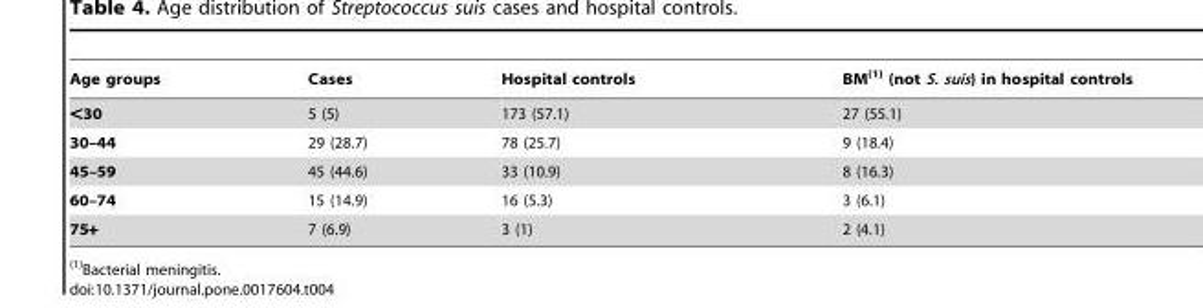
<table><thead><tr><td>Age groups</td><td>Cases</td><td>Hospital controls</td><td>BM(1) (not S. suis) in hospital controls</td></tr></thead><tbody><tr><td>&lt;30</td><td>5 (5)</td><td>173 (57.1)</td><td>27 (55.1)</td></tr><tr><td>30–44</td><td>29 (28.7)</td><td>78 (25.7)</td><td>9 (18.4)</td></tr><tr><td>45–59</td><td>45 (44.6)</td><td>33 (10.9)</td><td>8 (16.3)</td></tr><tr><td>60–74</td><td>15 (14.9)</td><td>16 (5.3)</td><td>3 (6.1)</td></tr><tr><td>75+</td><td>7 (6.9)</td><td>3 (1)</td><td>2 (4.1)</td></tr></tbody></table>